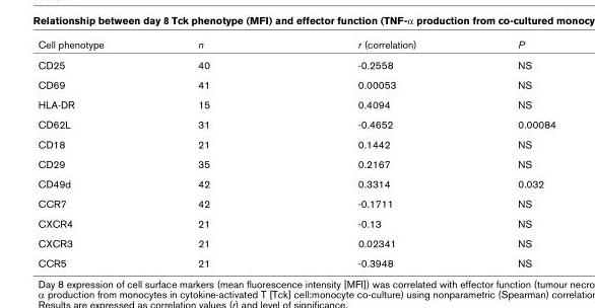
<table><thead><tr><td>Cell phenotype</td><td>n</td><td>r (correlation)</td><td>P</td></tr></thead><tbody><tr><td>CD25</td><td>40</td><td>-0.2558</td><td>NS</td></tr><tr><td>CD69</td><td>41</td><td>0.00053</td><td>NS</td></tr><tr><td>HLA-DR</td><td>15</td><td>0.4094</td><td>NS</td></tr><tr><td>CD62L</td><td>31</td><td>-0.4652</td><td>0.00084</td></tr><tr><td>CD18</td><td>21</td><td>0.1442</td><td>NS</td></tr><tr><td>CD29</td><td>35</td><td>0.2167</td><td>NS</td></tr><tr><td>CD49d</td><td>42</td><td>0.3314</td><td>0.032</td></tr><tr><td>CCR7</td><td>42</td><td>-0.1711</td><td>NS</td></tr><tr><td>CXCR4</td><td>21</td><td>-0.13</td><td>NS</td></tr><tr><td>CXCR3</td><td>21</td><td>0.02341</td><td>NS</td></tr><tr><td>CCR5</td><td>21</td><td>-0.3948</td><td>NS</td></tr></tbody></table>